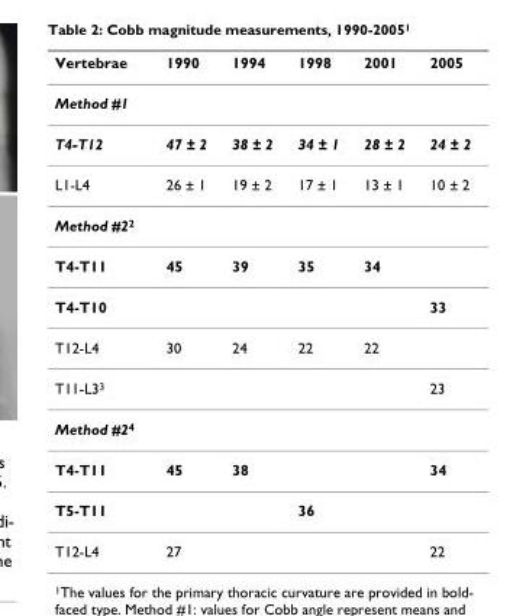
<table><thead><tr><td>Vertebrae</td><td>1990</td><td>1994</td><td>1998</td><td>2001</td><td>2005</td></tr></thead><tbody><tr><td colspan="6">Method #1</td></tr><tr><td>T4-T12</td><td>47 ± 2</td><td>38 ± 2</td><td>34 ± 1</td><td>28 ± 2</td><td>24 ± 2</td></tr><tr><td>L1-L4</td><td>26 ± 1</td><td>19 ± 2</td><td>17 ± 1</td><td>13 ± 1</td><td>10 ± 2</td></tr><tr><td colspan="6">Method #2<sup>2</sup></td></tr><tr><td>T4-T11</td><td>45</td><td>39</td><td>35</td><td>34</td><td></td></tr><tr><td>T4-T10</td><td></td><td></td><td></td><td></td><td>33</td></tr><tr><td>T12-L4</td><td>30</td><td>24</td><td>22</td><td>22</td><td></td></tr><tr><td>T11-L3<sup>3</sup></td><td></td><td></td><td></td><td></td><td>23</td></tr><tr><td colspan="6">Method #2<sup>4</sup></td></tr><tr><td>T4-T11</td><td>45</td><td>38</td><td></td><td></td><td>34</td></tr><tr><td>T5-T11</td><td></td><td></td><td>36</td><td></td><td></td></tr><tr><td>T12-L4</td><td>27</td><td></td><td></td><td></td><td>22</td></tr></tbody></table>